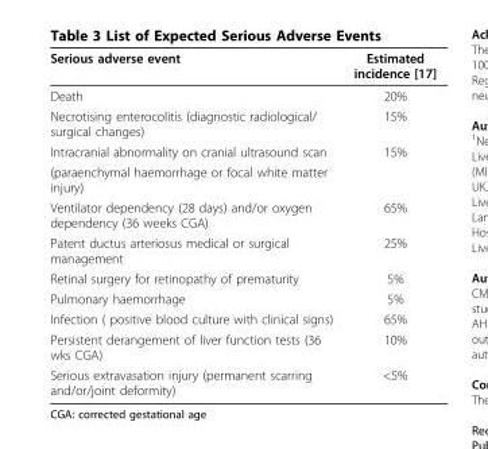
<table><thead><tr><td>Serious adverse event</td><td>Estimated incidence [17]</td></tr></thead><tbody><tr><td>Death</td><td>20%</td></tr><tr><td>Necrotising enterocolitis (diagnostic radiological/ surgical changes)</td><td>15%</td></tr><tr><td>Intracranial abnormality on cranial ultrasound scan</td><td>15%</td></tr><tr><td colspan="2">(paraenchymal haemorrhage or focal white matter injury)</td></tr><tr><td>Ventilator dependency (28 days) and/or oxygen dependency (36 weeks CGA)</td><td>65%</td></tr><tr><td>Patent ductus arteriosus medical or surgical management</td><td>25%</td></tr><tr><td>Retinal surgery for retinopathy of prematurity</td><td>5%</td></tr><tr><td>Pulmonary haemorrhage</td><td>5%</td></tr><tr><td>Infection ( positive blood culture with clinical signs)</td><td>65%</td></tr><tr><td>Persistent derangement of liver function tests (36 wks CGA)</td><td>10%</td></tr><tr><td>Serious extravasation injury (permanent scarring and/or/joint deformity)</td><td>&lt;5%</td></tr></tbody></table>